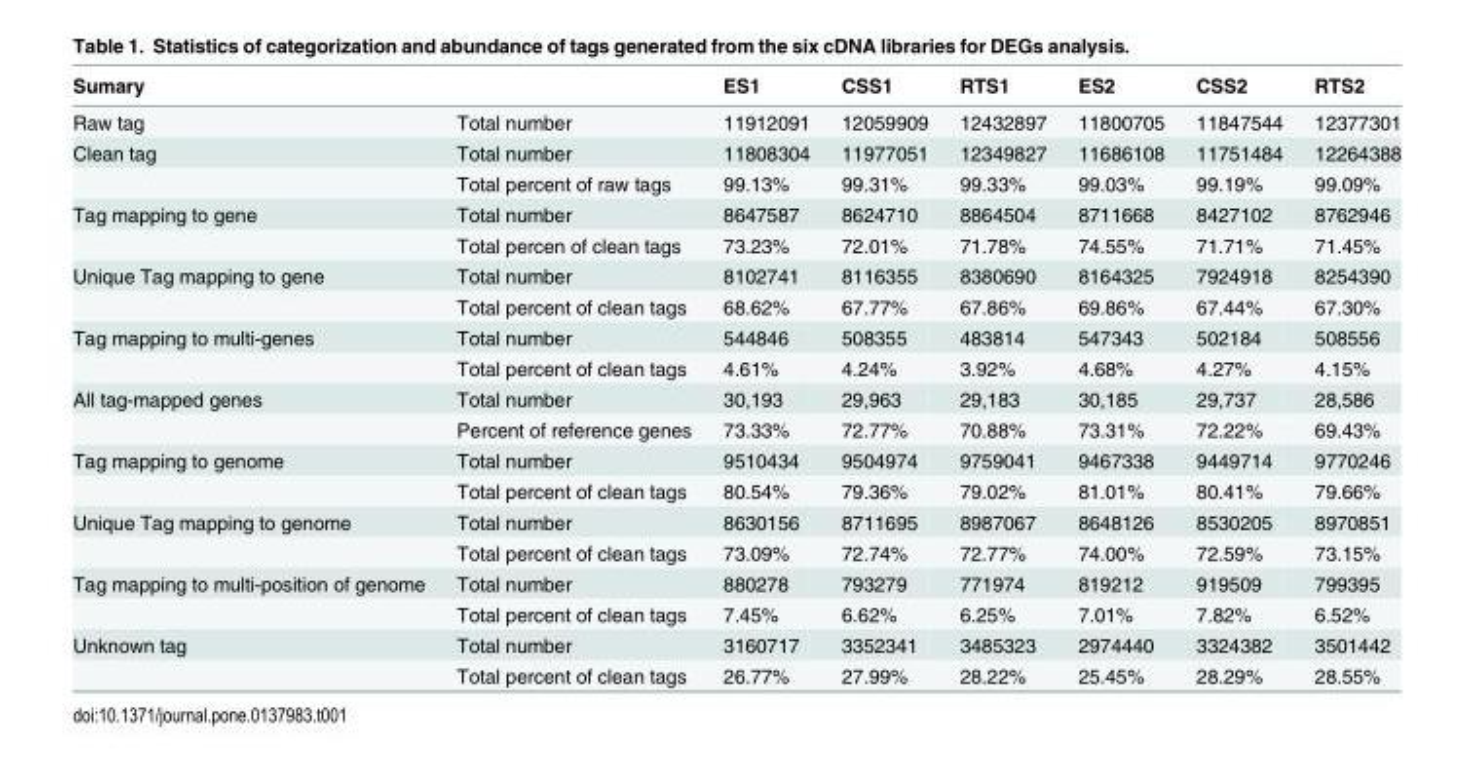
<table><thead><tr><td>Sumary</td><td></td><td>ES1</td><td>CSS1</td><td>RTS1</td><td>ES2</td><td>CSS2</td><td>RTS2</td></tr></thead><tbody><tr><td>Raw tag</td><td>Total number</td><td>11912091</td><td>12059909</td><td>12432897</td><td>11800705</td><td>11847544</td><td>12377301</td></tr><tr><td rowspan="2">Clean tag</td><td>Total number</td><td>11808304</td><td>11977051</td><td>12349827</td><td>11686108</td><td>11751484</td><td>12264388</td></tr><tr><td>Total percent of raw tags</td><td>99.13%</td><td>99.31%</td><td>99.33%</td><td>99.03%</td><td>99.19%</td><td>99.09%</td></tr><tr><td rowspan="2">Tag mapping to gene</td><td>Total number</td><td>8647587</td><td>8624710</td><td>8864504</td><td>8711668</td><td>8427102</td><td>8762946</td></tr><tr><td>Total percen of clean tags</td><td>73.23%</td><td>72.01%</td><td>71.78%</td><td>74.55%</td><td>71.71%</td><td>71.45%</td></tr><tr><td rowspan="2">Unique Tag mapping to gene</td><td>Total number</td><td>8102741</td><td>8116355</td><td>8380690</td><td>8164325</td><td>7924918</td><td>8254390</td></tr><tr><td>Total percent of clean tags</td><td>68.62%</td><td>67.77%</td><td>67.86%</td><td>69.86%</td><td>67.44%</td><td>67.30%</td></tr><tr><td rowspan="2">Tag mapping to multi-genes</td><td>Total number</td><td>544846</td><td>508355</td><td>483814</td><td>547343</td><td>502184</td><td>508556</td></tr><tr><td>Total percent of clean tags</td><td>4.61%</td><td>4.24%</td><td>3.92%</td><td>4.68%</td><td>4.27%</td><td>4.15%</td></tr><tr><td rowspan="2">All tag-mapped genes</td><td>Total number</td><td>30,193</td><td>29,963</td><td>29,183</td><td>30,185</td><td>29,737</td><td>28,586</td></tr><tr><td>Percent of reference genes</td><td>73.33%</td><td>72.77%</td><td>70.88%</td><td>73.31%</td><td>72.22%</td><td>69.43%</td></tr><tr><td rowspan="2">Tag mapping to genome</td><td>Total number</td><td>9510434</td><td>9504974</td><td>9759041</td><td>9467338</td><td>9449714</td><td>9770246</td></tr><tr><td>Total percent of clean tags</td><td>80.54%</td><td>79.36%</td><td>79.02%</td><td>81.01%</td><td>80.41%</td><td>79.66%</td></tr><tr><td rowspan="2">Unique Tag mapping to genome</td><td>Total number</td><td>8630156</td><td>8711695</td><td>8987067</td><td>8648126</td><td>8530205</td><td>8970851</td></tr><tr><td>Total percent of clean tags</td><td>73.09%</td><td>72.74%</td><td>72.77%</td><td>74.00%</td><td>72.59%</td><td>73.15%</td></tr><tr><td rowspan="2">Tag mapping to multi-position of genome</td><td>Total number</td><td>880278</td><td>793279</td><td>771974</td><td>819212</td><td>919509</td><td>799395</td></tr><tr><td>Total percent of clean tags</td><td>7.45%</td><td>6.62%</td><td>6.25%</td><td>7.01%</td><td>7.82%</td><td>6.52%</td></tr><tr><td rowspan="2">Unknown tag</td><td>Total number</td><td>3160717</td><td>3352341</td><td>3485323</td><td>2974440</td><td>3324382</td><td>3501442</td></tr><tr><td>Total percent of clean tags</td><td>26.77%</td><td>27.99%</td><td>28.22%</td><td>25.45%</td><td>28.29%</td><td>28.55%</td></tr></tbody></table>